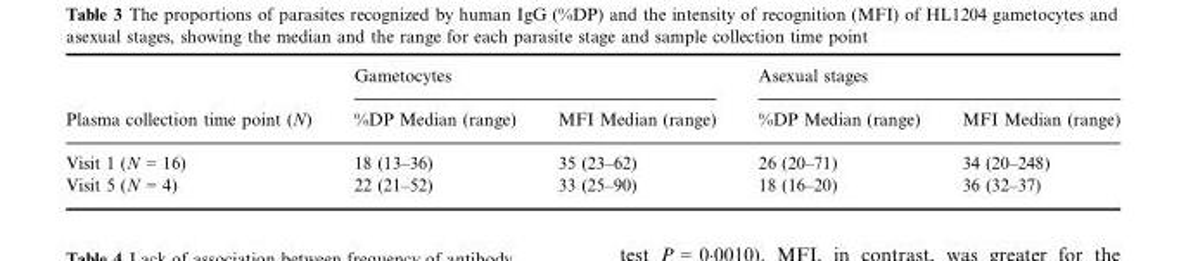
<table><thead><tr><td rowspan="2">Plasma collection time point (N)</td><td colspan="2">Gametocytes</td><td colspan="2">Asexual stages</td></tr><tr><td>%DP Median (range)</td><td>MFI Median (range)</td><td>%DP Median (range)</td><td>MFI Median (range)</td></tr></thead><tbody><tr><td>Visit 1 (N = 16)</td><td>18 (13–36)</td><td>35 (23–62)</td><td>26 (20–71)</td><td>34 (20–248)</td></tr><tr><td>Visit 5 (N = 4)</td><td>22 (21–52)</td><td>33 (25–90)</td><td>18 (16–20)</td><td>36 (32–37)</td></tr></tbody></table>